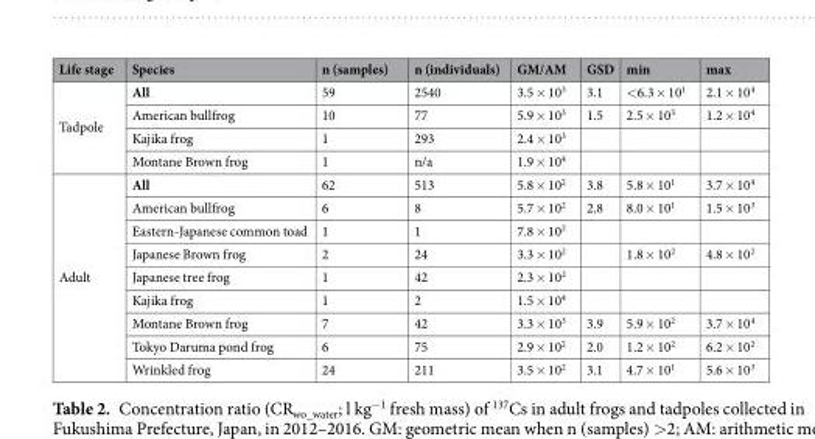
<table><thead><tr><td>Life stage</td><td>Species</td><td>n (samples)</td><td>n (individuals)</td><td>GM/AM</td><td>GSD</td><td>min</td><td>max</td></tr></thead><tbody><tr><td rowspan="4">Tadpole</td><td>All</td><td>59</td><td>2540</td><td>3.5 × 10<sup>3</sup></td><td>3.1</td><td>&lt;6.3 × 10<sup>1</sup></td><td>2.1 × 10<sup>4</sup></td></tr><tr><td>American bullfrog</td><td>10</td><td>77</td><td>5.9 × 10<sup>3</sup></td><td>1.5</td><td>2.5 × 10<sup>3</sup></td><td>1.2 × 10<sup>4</sup></td></tr><tr><td>Kajika frog</td><td>1</td><td>293</td><td>2.4 × 10<sup>3</sup></td><td></td><td></td><td></td></tr><tr><td>Montane Brown frog</td><td>1</td><td>n/a</td><td>1.9 × 10<sup>4</sup></td><td></td><td></td><td></td></tr><tr><td rowspan="9">Adult</td><td>All</td><td>62</td><td>513</td><td>5.8 × 10<sup>2</sup></td><td>3.8</td><td>5.8 × 10<sup>1</sup></td><td>3.7 × 10<sup>4</sup></td></tr><tr><td>American bullfrog</td><td>6</td><td>8</td><td>5.7 × 10<sup>2</sup></td><td>2.8</td><td>8.0 × 10<sup>1</sup></td><td>1.5 × 10<sup>3</sup></td></tr><tr><td>Eastern-Japanese common toad</td><td>1</td><td>1</td><td>7.8 × 10<sup>2</sup></td><td></td><td></td><td></td></tr><tr><td>Japanese Brown frog</td><td>2</td><td>24</td><td>3.3 × 10<sup>2</sup></td><td></td><td>1.8 × 10<sup>2</sup></td><td>4.8 × 10<sup>2</sup></td></tr><tr><td>Japanese tree frog</td><td>1</td><td>42</td><td>2.3 × 10<sup>2</sup></td><td></td><td></td><td></td></tr><tr><td>Kajika frog</td><td>1</td><td>2</td><td>1.5 × 10<sup>4</sup></td><td></td><td></td><td></td></tr><tr><td>Montane Brown frog</td><td>7</td><td>42</td><td>3.3 × 10<sup>3</sup></td><td>3.9</td><td>5.9 × 10<sup>2</sup></td><td>3.7 × 10<sup>4</sup></td></tr><tr><td>Tokyo Daruma pond frog</td><td>6</td><td>75</td><td>2.9 × 10<sup>2</sup></td><td>2.0</td><td>1.2 × 10<sup>2</sup></td><td>6.2 × 10<sup>2</sup></td></tr><tr><td>Wrinkled frog</td><td>24</td><td>211</td><td>3.5 × 10<sup>2</sup></td><td>3.1</td><td>4.7 × 10<sup>1</sup></td><td>5.6 × 10<sup>3</sup></td></tr></tbody></table>